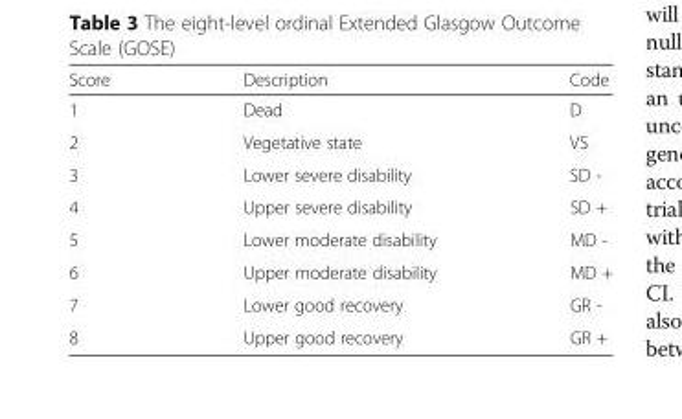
<table><thead><tr><td>Score</td><td>Description</td><td>Code</td></tr></thead><tbody><tr><td>1</td><td>Dead</td><td>D</td></tr><tr><td>2</td><td>Vegetative state</td><td>VS</td></tr><tr><td>3</td><td>Lower severe disability</td><td>SD -</td></tr><tr><td>4</td><td>Upper severe disability</td><td>SD +</td></tr><tr><td>5</td><td>Lower moderate disability</td><td>MD -</td></tr><tr><td>6</td><td>Upper moderate disability</td><td>MD +</td></tr><tr><td>7</td><td>Lower good recovery</td><td>GR -</td></tr><tr><td>8</td><td>Upper good recovery</td><td>GR +</td></tr></tbody></table>